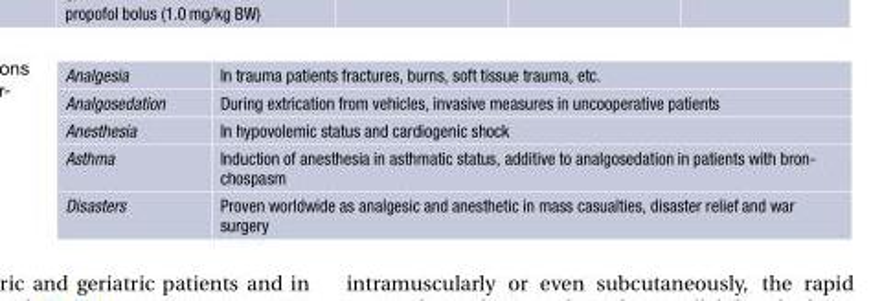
<table><tbody><tr><td>Analgesia</td><td>In trauma patients fractures, burns, soft tissue trauma, etc.</td></tr><tr><td>Analgosedation</td><td>During extrication from vehicles, invasive measures in uncooperative patients</td></tr><tr><td>Anesthesia</td><td>In hypovolemic status and cardiogenic shock</td></tr><tr><td>Asthma</td><td>Induction of anesthesia in asthmatic status, additive to analgosedation in patients with bron- chospasm</td></tr><tr><td>Disasters</td><td>Proven worldwide as analgesic and anesthetic in mass casualties, disaster relief and war surgery</td></tr></tbody></table>